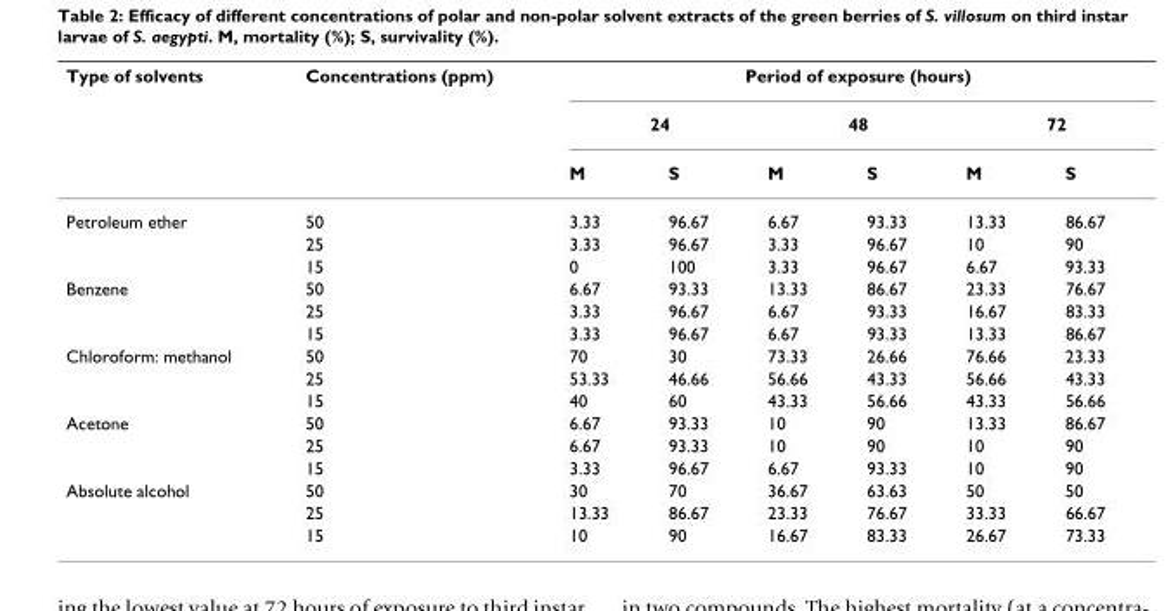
<table><thead><tr><td rowspan="3">Type of solvents</td><td rowspan="3">Concentrations (ppm)</td><td colspan="6">Period of exposure (hours)</td></tr><tr><td colspan="2">24</td><td colspan="2">48</td><td colspan="2">72</td></tr><tr><td>M</td><td>S</td><td>M</td><td>S</td><td>M</td><td>S</td></tr></thead><tbody><tr><td rowspan="3">Petroleum ether</td><td>50</td><td>3.33</td><td>96.67</td><td>6.67</td><td>93.33</td><td>13.33</td><td>86.67</td></tr><tr><td>25</td><td>3.33</td><td>96.67</td><td>3.33</td><td>96.67</td><td>10</td><td>90</td></tr><tr><td>15</td><td>0</td><td>100</td><td>3.33</td><td>96.67</td><td>6.67</td><td>93.33</td></tr><tr><td rowspan="3">Benzene</td><td>50</td><td>6.67</td><td>93.33</td><td>13.33</td><td>86.67</td><td>23.33</td><td>76.67</td></tr><tr><td>25</td><td>3.33</td><td>96.67</td><td>6.67</td><td>93.33</td><td>16.67</td><td>83.33</td></tr><tr><td>15</td><td>3.33</td><td>96.67</td><td>6.67</td><td>93.33</td><td>13.33</td><td>86.67</td></tr><tr><td rowspan="3">Chloroform: methanol</td><td>50</td><td>70</td><td>30</td><td>73.33</td><td>26.66</td><td>76.66</td><td>23.33</td></tr><tr><td>25</td><td>53.33</td><td>46.66</td><td>56.66</td><td>43.33</td><td>56.66</td><td>43.33</td></tr><tr><td>15</td><td>40</td><td>60</td><td>43.33</td><td>56.66</td><td>43.33</td><td>56.66</td></tr><tr><td rowspan="3">Acetone</td><td>50</td><td>6.67</td><td>93.33</td><td>10</td><td>90</td><td>13.33</td><td>86.67</td></tr><tr><td>25</td><td>6.67</td><td>93.33</td><td>10</td><td>90</td><td>10</td><td>90</td></tr><tr><td>15</td><td>3.33</td><td>96.67</td><td>6.67</td><td>93.33</td><td>10</td><td>90</td></tr><tr><td rowspan="3">Absolute alcohol</td><td>50</td><td>30</td><td>70</td><td>36.67</td><td>63.63</td><td>50</td><td>50</td></tr><tr><td>25</td><td>13.33</td><td>86.67</td><td>23.33</td><td>76.67</td><td>33.33</td><td>66.67</td></tr><tr><td>15</td><td>10</td><td>90</td><td>16.67</td><td>83.33</td><td>26.67</td><td>73.33</td></tr></tbody></table>